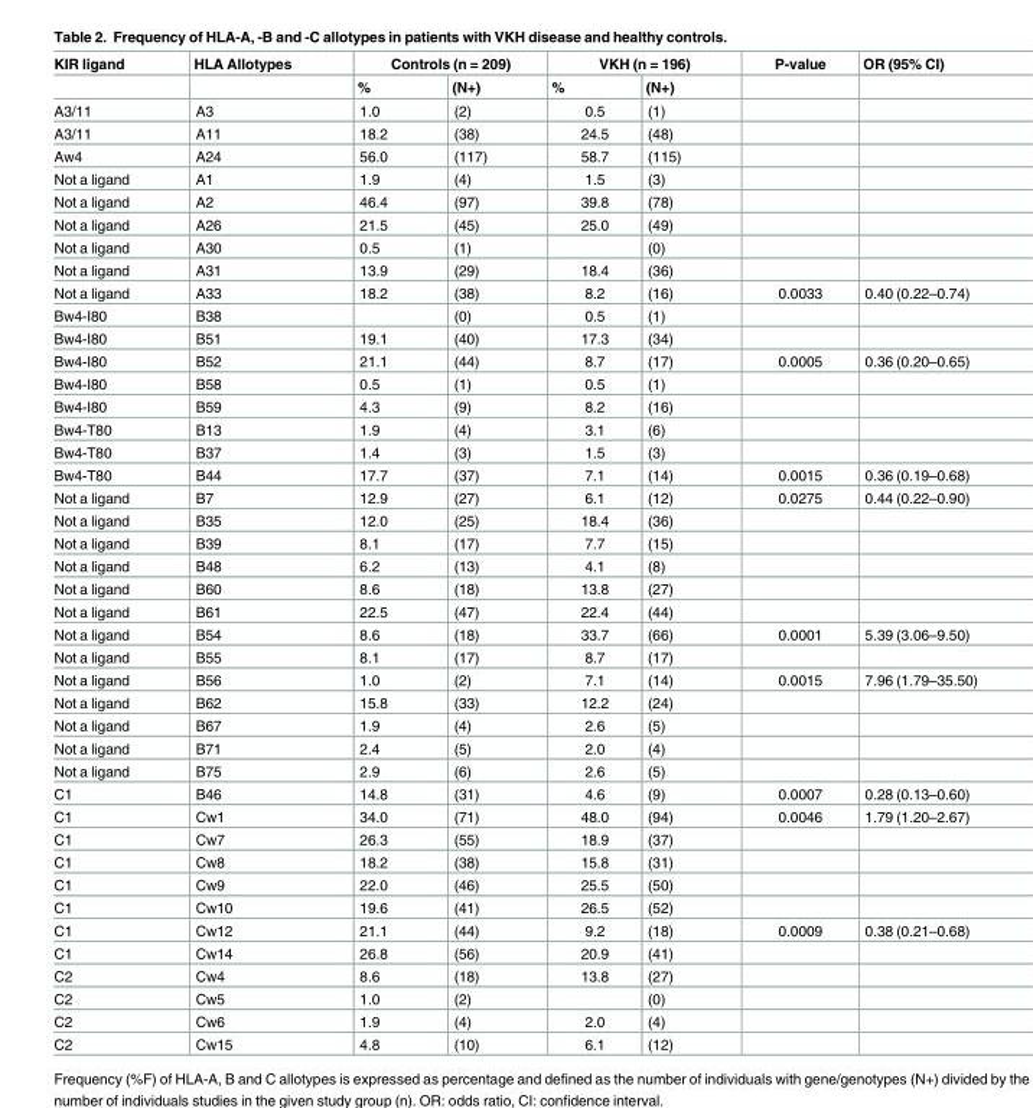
<table><thead><tr><td rowspan="2">KIR ligand</td><td rowspan="2">HLA Allotypes</td><td colspan="2">Controls (n = 209)</td><td colspan="2">VKH (n = 196)</td><td rowspan="2">P-value</td><td rowspan="2">OR (95% CI)</td></tr><tr><td>%</td><td>(N+)</td><td>%</td><td>(N+)</td></tr></thead><tbody><tr><td>A3/11</td><td>A3</td><td>1.0</td><td>(2)</td><td>0.5</td><td>(1)</td><td></td><td></td></tr><tr><td>A3/11</td><td>A11</td><td>18.2</td><td>(38)</td><td>24.5</td><td>(48)</td><td></td><td></td></tr><tr><td>Aw4</td><td>A24</td><td>56.0</td><td>(117)</td><td>58.7</td><td>(115)</td><td></td><td></td></tr><tr><td>Not a ligand</td><td>A1</td><td>1.9</td><td>(4)</td><td>1.5</td><td>(3)</td><td></td><td></td></tr><tr><td>Not a ligand</td><td>A2</td><td>46.4</td><td>(97)</td><td>39.8</td><td>(78)</td><td></td><td></td></tr><tr><td>Not a ligand</td><td>A26</td><td>21.5</td><td>(45)</td><td>25.0</td><td>(49)</td><td></td><td></td></tr><tr><td>Not a ligand</td><td>A30</td><td>0.5</td><td>(1)</td><td></td><td>(0)</td><td></td><td></td></tr><tr><td>Not a ligand</td><td>A31</td><td>13.9</td><td>(29)</td><td>18.4</td><td>(36)</td><td></td><td></td></tr><tr><td>Not a ligand</td><td>A33</td><td>18.2</td><td>(38)</td><td>8.2</td><td>(16)</td><td>0.0033</td><td>0.40 (0.22–0.74)</td></tr><tr><td>Bw4-I80</td><td>B38</td><td></td><td>(0)</td><td>0.5</td><td>(1)</td><td></td><td></td></tr><tr><td>Bw4-I80</td><td>B51</td><td>19.1</td><td>(40)</td><td>17.3</td><td>(34)</td><td></td><td></td></tr><tr><td>Bw4-I80</td><td>B52</td><td>21.1</td><td>(44)</td><td>8.7</td><td>(17)</td><td>0.0005</td><td>0.36 (0.20–0.65)</td></tr><tr><td>Bw4-I80</td><td>B58</td><td>0.5</td><td>(1)</td><td>0.5</td><td>(1)</td><td></td><td></td></tr><tr><td>Bw4-I80</td><td>B59</td><td>4.3</td><td>(9)</td><td>8.2</td><td>(16)</td><td></td><td></td></tr><tr><td>Bw4-T80</td><td>B13</td><td>1.9</td><td>(4)</td><td>3.1</td><td>(6)</td><td></td><td></td></tr><tr><td>Bw4-T80</td><td>B37</td><td>1.4</td><td>(3)</td><td>1.5</td><td>(3)</td><td></td><td></td></tr><tr><td>Bw4-T80</td><td>B44</td><td>17.7</td><td>(37)</td><td>7.1</td><td>(14)</td><td>0.0015</td><td>0.36 (0.19–0.68)</td></tr><tr><td>Not a ligand</td><td>B7</td><td>12.9</td><td>(27)</td><td>6.1</td><td>(12)</td><td>0.0275</td><td>0.44 (0.22–0.90)</td></tr><tr><td>Not a ligand</td><td>B35</td><td>12.0</td><td>(25)</td><td>18.4</td><td>(36)</td><td></td><td></td></tr><tr><td>Not a ligand</td><td>B39</td><td>8.1</td><td>(17)</td><td>7.7</td><td>(15)</td><td></td><td></td></tr><tr><td>Not a ligand</td><td>B48</td><td>6.2</td><td>(13)</td><td>4.1</td><td>(8)</td><td></td><td></td></tr><tr><td>Not a ligand</td><td>B60</td><td>8.6</td><td>(18)</td><td>13.8</td><td>(27)</td><td></td><td></td></tr><tr><td>Not a ligand</td><td>B61</td><td>22.5</td><td>(47)</td><td>22.4</td><td>(44)</td><td></td><td></td></tr><tr><td>Not a ligand</td><td>B54</td><td>8.6</td><td>(18)</td><td>33.7</td><td>(66)</td><td>0.0001</td><td>5.39 (3.06–9.50)</td></tr><tr><td>Not a ligand</td><td>B55</td><td>8.1</td><td>(17)</td><td>8.7</td><td>(17)</td><td></td><td></td></tr><tr><td>Not a ligand</td><td>B56</td><td>1.0</td><td>(2)</td><td>7.1</td><td>(14)</td><td>0.0015</td><td>7.96 (1.79–35.50)</td></tr><tr><td>Not a ligand</td><td>B62</td><td>15.8</td><td>(33)</td><td>12.2</td><td>(24)</td><td></td><td></td></tr><tr><td>Not a ligand</td><td>B67</td><td>1.9</td><td>(4)</td><td>2.6</td><td>(5)</td><td></td><td></td></tr><tr><td>Not a ligand</td><td>B71</td><td>2.4</td><td>(5)</td><td>2.0</td><td>(4)</td><td></td><td></td></tr><tr><td>Not a ligand</td><td>B75</td><td>2.9</td><td>(6)</td><td>2.6</td><td>(5)</td><td></td><td></td></tr><tr><td>C1</td><td>B46</td><td>14.8</td><td>(31)</td><td>4.6</td><td>(9)</td><td>0.0007</td><td>0.28 (0.13–0.60)</td></tr><tr><td>C1</td><td>Cw1</td><td>34.0</td><td>(71)</td><td>48.0</td><td>(94)</td><td>0.0046</td><td>1.79 (1.20–2.67)</td></tr><tr><td>C1</td><td>Cw7</td><td>26.3</td><td>(55)</td><td>18.9</td><td>(37)</td><td></td><td></td></tr><tr><td>C1</td><td>Cw8</td><td>18.2</td><td>(38)</td><td>15.8</td><td>(31)</td><td></td><td></td></tr><tr><td>C1</td><td>Cw9</td><td>22.0</td><td>(46)</td><td>25.5</td><td>(50)</td><td></td><td></td></tr><tr><td>C1</td><td>Cw10</td><td>19.6</td><td>(41)</td><td>26.5</td><td>(52)</td><td></td><td></td></tr><tr><td>C1</td><td>Cw12</td><td>21.1</td><td>(44)</td><td>9.2</td><td>(18)</td><td>0.0009</td><td>0.38 (0.21–0.68)</td></tr><tr><td>C1</td><td>Cw14</td><td>26.8</td><td>(56)</td><td>20.9</td><td>(41)</td><td></td><td></td></tr><tr><td>C2</td><td>Cw4</td><td>8.6</td><td>(18)</td><td>13.8</td><td>(27)</td><td></td><td></td></tr><tr><td>C2</td><td>Cw5</td><td>1.0</td><td>(2)</td><td></td><td>(0)</td><td></td><td></td></tr><tr><td>C2</td><td>Cw6</td><td>1.9</td><td>(4)</td><td>2.0</td><td>(4)</td><td></td><td></td></tr><tr><td>C2</td><td>Cw15</td><td>4.8</td><td>(10)</td><td>6.1</td><td>(12)</td><td></td><td></td></tr></tbody></table>